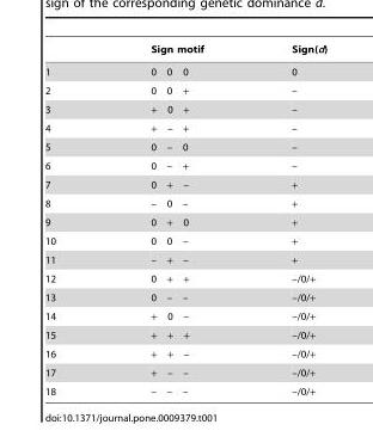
<table><thead><tr><td></td><td>Sign motif</td><td>Sign(d)</td></tr></thead><tbody><tr><td>1</td><td>0 0 0</td><td>0</td></tr><tr><td>2</td><td>0 0 +</td><td>–</td></tr><tr><td>3</td><td>+ 0 +</td><td>–</td></tr><tr><td>4</td><td>+ – +</td><td>–</td></tr><tr><td>5</td><td>0 – 0</td><td>–</td></tr><tr><td>6</td><td>0 – +</td><td>–</td></tr><tr><td>7</td><td>0 + –</td><td>+</td></tr><tr><td>8</td><td>– 0 –</td><td>+</td></tr><tr><td>9</td><td>0 + 0</td><td>+</td></tr><tr><td>10</td><td>0 0 –</td><td>+</td></tr><tr><td>11</td><td>– + –</td><td>+</td></tr><tr><td>12</td><td>0 + +</td><td>–/0/+</td></tr><tr><td>13</td><td>0 – –</td><td>–/0/+</td></tr><tr><td>14</td><td>+ 0 –</td><td>–/0/+</td></tr><tr><td>15</td><td>+ + +</td><td>–/0/+</td></tr><tr><td>16</td><td>+ + –</td><td>–/0/+</td></tr><tr><td>17</td><td>+ – –</td><td>–/0/+</td></tr><tr><td>18</td><td>– – –</td><td>–/0/+</td></tr></tbody></table>